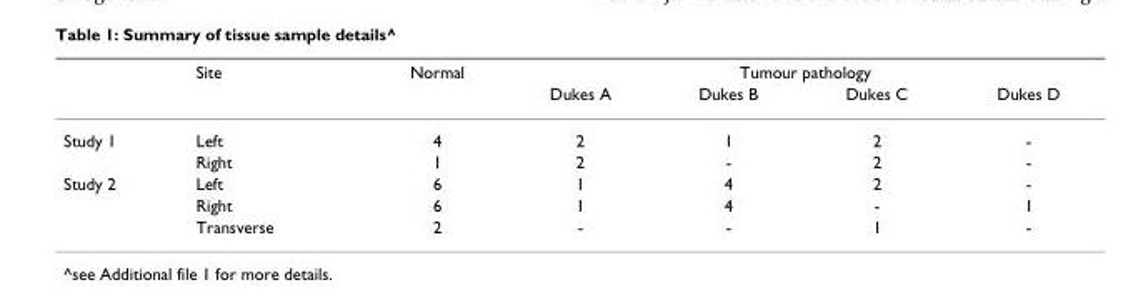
<table><thead><tr><td rowspan="2"></td><td rowspan="2">Site</td><td rowspan="2">Normal</td><td colspan="4">Tumour pathology</td></tr><tr><td>Dukes A</td><td>Dukes B</td><td>Dukes C</td><td>Dukes D</td></tr></thead><tbody><tr><td rowspan="2">Study 1</td><td>Left</td><td>4</td><td>2</td><td>1</td><td>2</td><td>-</td></tr><tr><td>Right</td><td>1</td><td>2</td><td>-</td><td>2</td><td>-</td></tr><tr><td rowspan="3">Study 2</td><td>Left</td><td>6</td><td>1</td><td>4</td><td>2</td><td>-</td></tr><tr><td>Right</td><td>6</td><td>1</td><td>4</td><td>-</td><td>1</td></tr><tr><td>Transverse</td><td>2</td><td>-</td><td>-</td><td>1</td><td>-</td></tr></tbody></table>